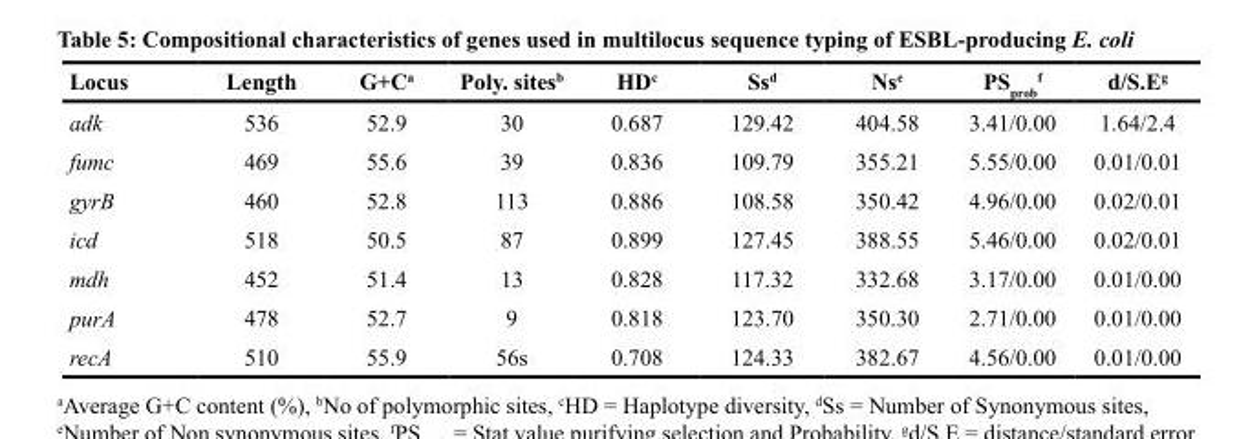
<table><thead><tr><td>Locus</td><td>Length</td><td>G+C<sup>a</sup></td><td>Poly. sites<sup>b</sup></td><td>HD<sup>c</sup></td><td>Ss<sup>d</sup></td><td>Ns<sup>e</sup></td><td>PS<sub>prob</sub> <sup>f</sup></td><td>d/S.E<sup>g</sup></td></tr></thead><tbody><tr><td>adk</td><td>536</td><td>52.9</td><td>30</td><td>0.687</td><td>129.42</td><td>404.58</td><td>3.41/0.00</td><td>1.64/2.4</td></tr><tr><td>fumc</td><td>469</td><td>55.6</td><td>39</td><td>0.836</td><td>109.79</td><td>355.21</td><td>5.55/0.00</td><td>0.01/0.01</td></tr><tr><td>gyrB</td><td>460</td><td>52.8</td><td>113</td><td>0.886</td><td>108.58</td><td>350.42</td><td>4.96/0.00</td><td>0.02/0.01</td></tr><tr><td>icd</td><td>518</td><td>50.5</td><td>87</td><td>0.899</td><td>127.45</td><td>388.55</td><td>5.46/0.00</td><td>0.02/0.01</td></tr><tr><td>mdh</td><td>452</td><td>51.4</td><td>13</td><td>0.828</td><td>117.32</td><td>332.68</td><td>3.17/0.00</td><td>0.01/0.00</td></tr><tr><td>purA</td><td>478</td><td>52.7</td><td>9</td><td>0.818</td><td>123.70</td><td>350.30</td><td>2.71/0.00</td><td>0.01/0.00</td></tr><tr><td>recA</td><td>510</td><td>55.9</td><td>56s</td><td>0.708</td><td>124.33</td><td>382.67</td><td>4.56/0.00</td><td>0.01/0.00</td></tr></tbody></table>